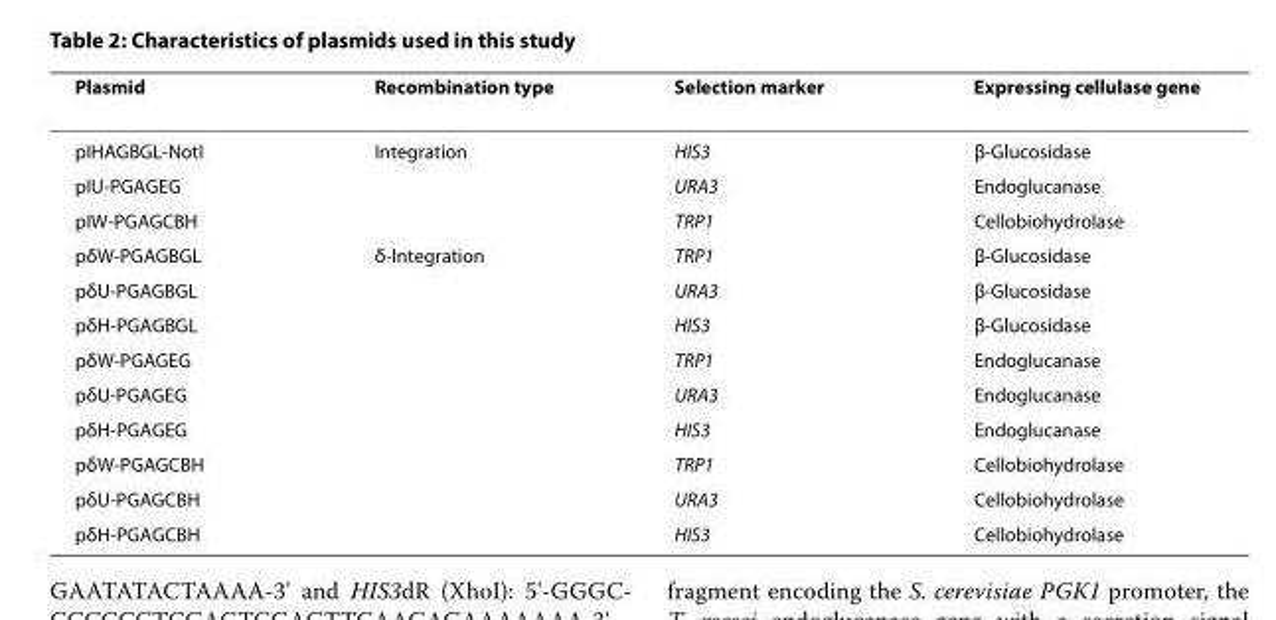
<table><thead><tr><td>Plasmid</td><td>Recombination type</td><td>Selection marker</td><td>Expressing cellulase gene</td></tr></thead><tbody><tr><td>pIHAGBGL-NotI</td><td>Integration</td><td>HIS3</td><td>β-Glucosidase</td></tr><tr><td>pIU-PGAGEG</td><td></td><td>URA3</td><td>Endoglucanase</td></tr><tr><td>pIW-PGAGCBH</td><td></td><td>TRP1</td><td>Cellobiohydrolase</td></tr><tr><td>pδW-PGAGBGL</td><td>δ-Integration</td><td>TRP1</td><td>β-Glucosidase</td></tr><tr><td>pδU-PGAGBGL</td><td></td><td>URA3</td><td>β-Glucosidase</td></tr><tr><td>pδH-PGAGBGL</td><td></td><td>HIS3</td><td>β-Glucosidase</td></tr><tr><td>pδW-PGAGEG</td><td></td><td>TRP1</td><td>Endoglucanase</td></tr><tr><td>pδU-PGAGEG</td><td></td><td>URA3</td><td>Endoglucanase</td></tr><tr><td>pδH-PGAGEG</td><td></td><td>HIS3</td><td>Endoglucanase</td></tr><tr><td>pδW-PGAGCBH</td><td></td><td>TRP1</td><td>Cellobiohydrolase</td></tr><tr><td>pδU-PGAGCBH</td><td></td><td>URA3</td><td>Cellobiohydrolase</td></tr><tr><td>pδH-PGAGCBH</td><td></td><td>HIS3</td><td>Cellobiohydrolase</td></tr></tbody></table>